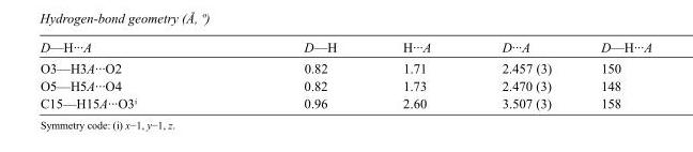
<table><tbody><tr><td>D—H···A</td><td>D—H</td><td>H···A</td><td>D···A</td><td>D—H···A</td></tr><tr><td>O3—H3A···O2</td><td>0.82</td><td>1.71</td><td>2.457 (3)</td><td>150</td></tr><tr><td>O5—H5A···O4</td><td>0.82</td><td>1.73</td><td>2.470 (3)</td><td>148</td></tr><tr><td>C15—H15A···O3<sup>i</sup></td><td>0.96</td><td>2.60</td><td>3.507 (3)</td><td>158</td></tr></tbody></table>